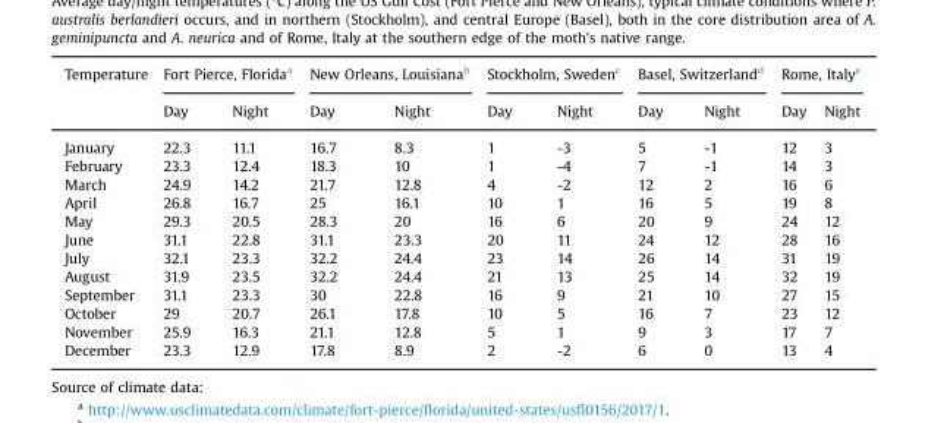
<table><thead><tr><td rowspan="2">Temperature</td><td colspan="2">Fort Pierce, Florida<sup>a</sup></td><td colspan="2">New Orleans, Louisiana<sup>b</sup></td><td colspan="2">Stockholm, Sweden<sup>c</sup></td><td colspan="2">Basel, Switzerland<sup>d</sup></td><td colspan="2">Rome, Italy<sup>e</sup></td></tr><tr><td>Day</td><td>Night</td><td>Day</td><td>Night</td><td>Day</td><td>Night</td><td>Day</td><td>Night</td><td>Day</td><td>Night</td></tr></thead><tbody><tr><td>January</td><td>22.3</td><td>11.1</td><td>16.7</td><td>8.3</td><td>1</td><td>-3</td><td>5</td><td>-1</td><td>12</td><td>3</td></tr><tr><td>February</td><td>23.3</td><td>12.4</td><td>18.3</td><td>10</td><td>1</td><td>-4</td><td>7</td><td>-1</td><td>14</td><td>3</td></tr><tr><td>March</td><td>24.9</td><td>14.2</td><td>21.7</td><td>12.8</td><td>4</td><td>-2</td><td>12</td><td>2</td><td>16</td><td>6</td></tr><tr><td>April</td><td>26.8</td><td>16.7</td><td>25</td><td>16.1</td><td>10</td><td>1</td><td>16</td><td>5</td><td>19</td><td>8</td></tr><tr><td>May</td><td>29.3</td><td>20.5</td><td>28.3</td><td>20</td><td>16</td><td>6</td><td>20</td><td>9</td><td>24</td><td>12</td></tr><tr><td>June</td><td>31.1</td><td>22.8</td><td>31.1</td><td>23.3</td><td>20</td><td>11</td><td>24</td><td>12</td><td>28</td><td>16</td></tr><tr><td>July</td><td>32.1</td><td>23.3</td><td>32.2</td><td>24.4</td><td>23</td><td>14</td><td>26</td><td>14</td><td>31</td><td>19</td></tr><tr><td>August</td><td>31.9</td><td>23.5</td><td>32.2</td><td>24.4</td><td>21</td><td>13</td><td>25</td><td>14</td><td>32</td><td>19</td></tr><tr><td>September</td><td>31.1</td><td>23.3</td><td>30</td><td>22.8</td><td>16</td><td>9</td><td>21</td><td>10</td><td>27</td><td>15</td></tr><tr><td>October</td><td>29</td><td>20.7</td><td>26.1</td><td>17.8</td><td>10</td><td>5</td><td>16</td><td>7</td><td>23</td><td>12</td></tr><tr><td>November</td><td>25.9</td><td>16.3</td><td>21.1</td><td>12.8</td><td>5</td><td>1</td><td>9</td><td>3</td><td>17</td><td>7</td></tr><tr><td>December</td><td>23.3</td><td>12.9</td><td>17.8</td><td>8.9</td><td>2</td><td>-2</td><td>6</td><td>0</td><td>13</td><td>4</td></tr></tbody></table>